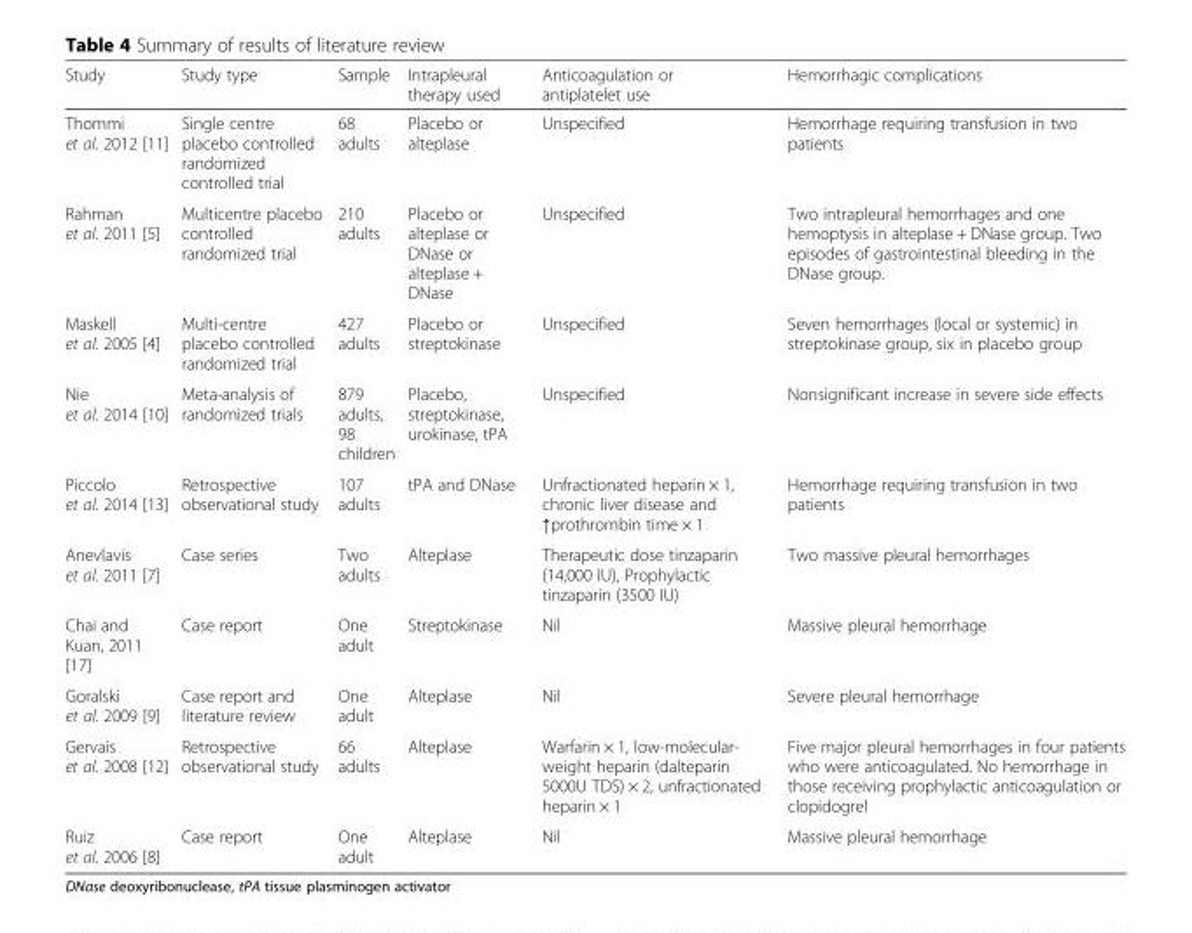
<table><thead><tr><td>Study</td><td>Study type</td><td>Sample</td><td>Intrapleural therapy used</td><td>Anticoagulation or antiplatelet use</td><td>Hemorrhagic complications</td></tr></thead><tbody><tr><td>Thommi et al. 2012 [11]</td><td>Single centre placebo controlled randomized controlled trial</td><td>68 adults</td><td>Placebo or alteplase</td><td>Unspecified</td><td>Hemorrhage requiring transfusion in two patients</td></tr><tr><td>Rahman et al. 2011 [5]</td><td>Multicentre placebo controlled randomized trial</td><td>210 adults</td><td>Placebo or alteplase or DNase or alteplase + DNase</td><td>Unspecified</td><td>Two intrapleural hemorrhages and one hemoptysis in alteplase + DNase group. Two episodes of gastrointestinal bleeding in the DNase group.</td></tr><tr><td>Maskell et al. 2005 [4]</td><td>Multi-centre placebo controlled randomized trial</td><td>427 adults</td><td>Placebo or streptokinase</td><td>Unspecified</td><td>Seven hemorrhages (local or systemic) in streptokinase group, six in placebo group</td></tr><tr><td>Nie et al. 2014 [10]</td><td>Meta-analysis of randomized trials</td><td>879 adults, 98 children</td><td>Placebo, streptokinase, urokinase, tPA</td><td>Unspecified</td><td>Nonsignificant increase in severe side effects</td></tr><tr><td>Piccolo et al. 2014 [13]</td><td>Retrospective observational study</td><td>107 adults</td><td>tPA and DNase</td><td>Unfractionated heparin × 1, chronic liver disease and ↑prothrombin time × 1</td><td>Hemorrhage requiring transfusion in two patients</td></tr><tr><td>Anevlavis et al. 2011 [7]</td><td>Case series</td><td>Two adults</td><td>Alteplase</td><td>Therapeutic dose tinzaparin (14,000 IU), Prophylactic tinzaparin (3500 IU)</td><td>Two massive pleural hemorrhages</td></tr><tr><td>Chai and Kuan, 2011 [17]</td><td>Case report</td><td>One adult</td><td>Streptokinase</td><td>Nil</td><td>Massive pleural hemorrhage</td></tr><tr><td>Goralski et al. 2009 [9]</td><td>Case report and literature review</td><td>One adult</td><td>Alteplase</td><td>Nil</td><td>Severe pleural hemorrhage</td></tr><tr><td>Gervais et al. 2008 [12]</td><td>Retrospective observational study</td><td>66 adults</td><td>Alteplase</td><td>Warfarin × 1, low-molecular- weight heparin (dalteparin 5000U TDS) × 2, unfractionated heparin × 1</td><td>Five major pleural hemorrhages in four patients who were anticoagulated. No hemorrhage in those receiving prophylactic anticoagulation or clopidogrel</td></tr><tr><td>Ruiz et al. 2006 [8]</td><td>Case report</td><td>One adult</td><td>Alteplase</td><td>Nil</td><td>Massive pleural hemorrhage</td></tr></tbody></table>